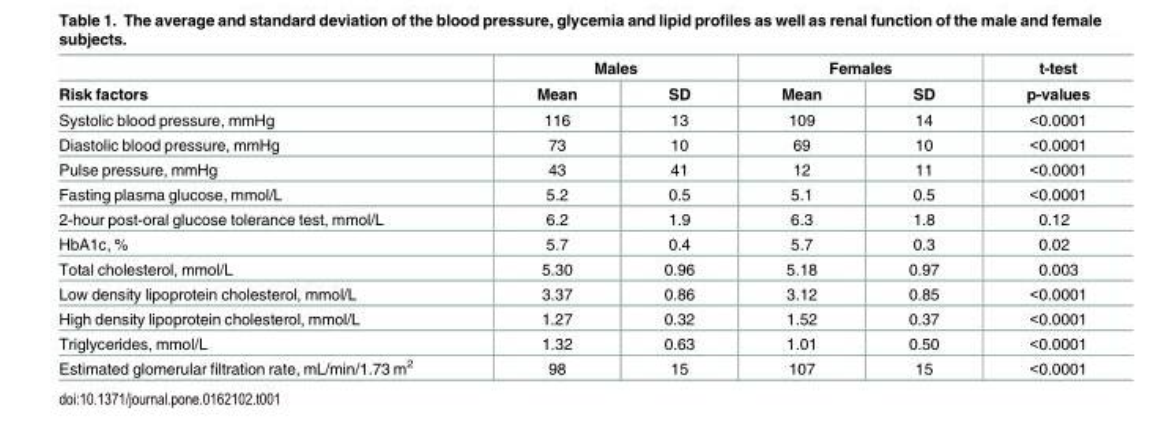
<table><thead><tr><td rowspan="2">Risk factors</td><td colspan="2">Males</td><td colspan="2">Females</td><td rowspan="2">t-test p-values</td></tr><tr><td>Mean</td><td>SD</td><td>Mean</td><td>SD</td></tr></thead><tbody><tr><td>Systolic blood pressure, mmHg</td><td>116</td><td>13</td><td>109</td><td>14</td><td>&lt;0.0001</td></tr><tr><td>Diastolic blood pressure, mmHg</td><td>73</td><td>10</td><td>69</td><td>10</td><td>&lt;0.0001</td></tr><tr><td>Pulse pressure, mmHg</td><td>43</td><td>41</td><td>12</td><td>11</td><td>&lt;0.0001</td></tr><tr><td>Fasting plasma glucose, mmol/L</td><td>5.2</td><td>0.5</td><td>5.1</td><td>0.5</td><td>&lt;0.0001</td></tr><tr><td>2-hour post-oral glucose tolerance test, mmol/L</td><td>6.2</td><td>1.9</td><td>6.3</td><td>1.8</td><td>0.12</td></tr><tr><td>HbA1c, %</td><td>5.7</td><td>0.4</td><td>5.7</td><td>0.3</td><td>0.02</td></tr><tr><td>Total cholesterol, mmol/L</td><td>5.30</td><td>0.96</td><td>5.18</td><td>0.97</td><td>0.003</td></tr><tr><td>Low density lipoprotein cholesterol, mmol/L</td><td>3.37</td><td>0.86</td><td>3.12</td><td>0.85</td><td>&lt;0.0001</td></tr><tr><td>High density lipoprotein cholesterol, mmol/L</td><td>1.27</td><td>0.32</td><td>1.52</td><td>0.37</td><td>&lt;0.0001</td></tr><tr><td>Triglycerides, mmol/L</td><td>1.32</td><td>0.63</td><td>1.01</td><td>0.50</td><td>&lt;0.0001</td></tr><tr><td>Estimated glomerular filtration rate, mL/min/1.73 m<sup>2</sup></td><td>98</td><td>15</td><td>107</td><td>15</td><td>&lt;0.0001</td></tr></tbody></table>